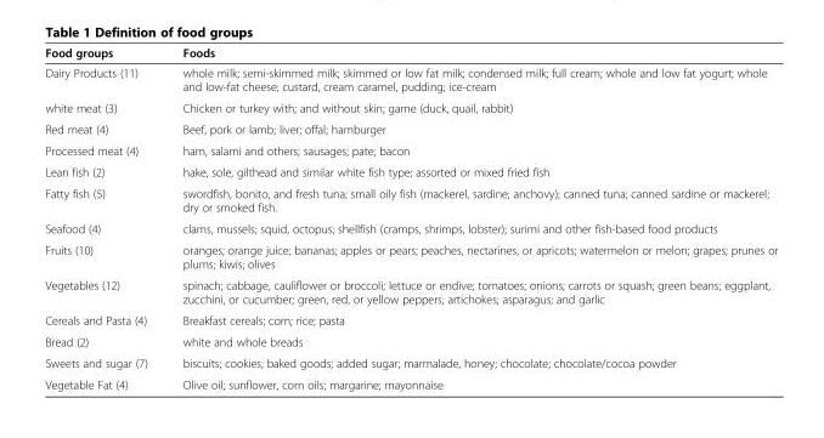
<table><thead><tr><td>Food groups</td><td>Foods</td></tr></thead><tbody><tr><td>Dairy Products (11)</td><td>whole milk; semi-skimmed milk; skimmed or low fat milk; condensed milk; full cream; whole and low fat yogurt; whole and low-fat cheese; custard, cream caramel, pudding; ice-cream</td></tr><tr><td>white meat (3)</td><td>Chicken or turkey with; and without skin; game (duck, quail, rabbit)</td></tr><tr><td>Red meat (4)</td><td>Beef, pork or lamb; liver; offal; hamburger</td></tr><tr><td>Processed meat (4)</td><td>ham, salami and others; sausages; pate; bacon</td></tr><tr><td>Lean fish (2)</td><td>hake, sole, gilthead and similar white fish type; assorted or mixed fried fish</td></tr><tr><td>Fatty fish (5)</td><td>swordfish, bonito, and fresh tuna; small oily fish (mackerel, sardine; anchovy); canned tuna; canned sardine or mackerel; dry or smoked fish.</td></tr><tr><td>Seafood (4)</td><td>clams, mussels; squid, octopus; shellfish (cramps, shrimps, lobster); surimi and other fish-based food products</td></tr><tr><td>Fruits (10)</td><td>oranges; orange juice; bananas; apples or pears; peaches, nectarines, or apricots; watermelon or melon; grapes; prunes or plums; kiwis; olives</td></tr><tr><td>Vegetables (12)</td><td>spinach; cabbage, cauliflower or broccoli; lettuce or endive; tomatoes; onions; carrots or squash; green beans; eggplant, zucchini, or cucumber; green, red, or yellow peppers; artichokes; asparagus; and garlic</td></tr><tr><td>Cereals and Pasta (4)</td><td>Breakfast cereals; corn; rice; pasta</td></tr><tr><td>Bread (2)</td><td>white and whole breads</td></tr><tr><td>Sweets and sugar (7)</td><td>biscuits; cookies; baked goods; added sugar; marmalade, honey; chocolate; chocolate/cocoa powder</td></tr><tr><td>Vegetable Fat (4)</td><td>Olive oil; sunflower, corn oils; margarine; mayonnaise</td></tr></tbody></table>